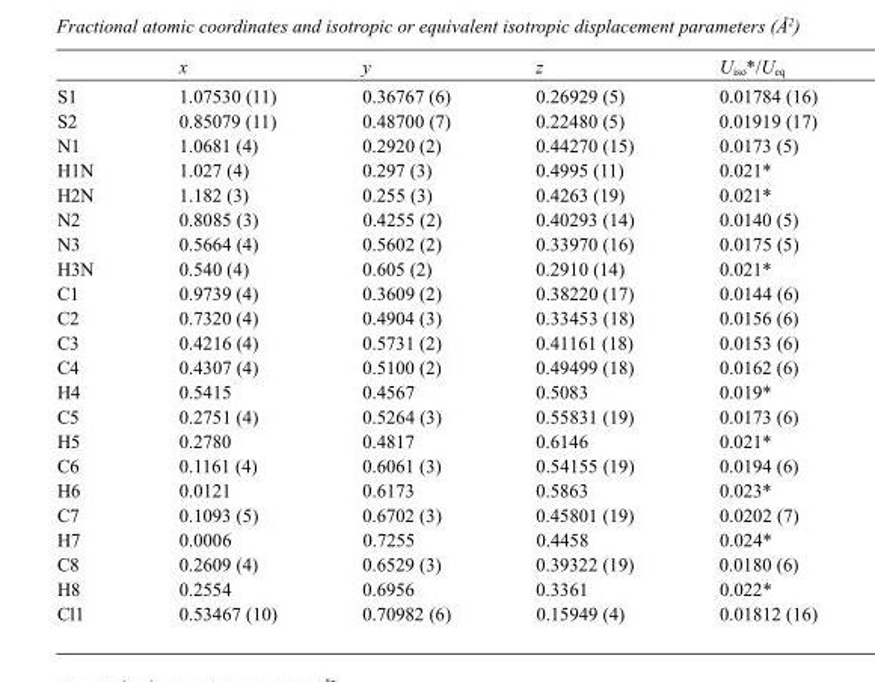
<table><thead><tr><td></td><td>x</td><td>y</td><td>z</td><td>U<sub>iso</sub>*/U<sub>eq</sub></td></tr></thead><tbody><tr><td>S1</td><td>1.07530 (11)</td><td>0.36767 (6)</td><td>0.26929 (5)</td><td>0.01784 (16)</td></tr><tr><td>S2</td><td>0.85079 (11)</td><td>0.48700 (7)</td><td>0.22480 (5)</td><td>0.01919 (17)</td></tr><tr><td>N1</td><td>1.0681 (4)</td><td>0.2920 (2)</td><td>0.44270 (15)</td><td>0.0173 (5)</td></tr><tr><td>H1N</td><td>1.027 (4)</td><td>0.297 (3)</td><td>0.4995 (11)</td><td>0.021*</td></tr><tr><td>H2N</td><td>1.182 (3)</td><td>0.255 (3)</td><td>0.4263 (19)</td><td>0.021*</td></tr><tr><td>N2</td><td>0.8085 (3)</td><td>0.4255 (2)</td><td>0.40293 (14)</td><td>0.0140 (5)</td></tr><tr><td>N3</td><td>0.5664 (4)</td><td>0.5602 (2)</td><td>0.33970 (16)</td><td>0.0175 (5)</td></tr><tr><td>H3N</td><td>0.540 (4)</td><td>0.605 (2)</td><td>0.2910 (14)</td><td>0.021*</td></tr><tr><td>C1</td><td>0.9739 (4)</td><td>0.3609 (2)</td><td>0.38220 (17)</td><td>0.0144 (6)</td></tr><tr><td>C2</td><td>0.7320 (4)</td><td>0.4904 (3)</td><td>0.33453 (18)</td><td>0.0156 (6)</td></tr><tr><td>C3</td><td>0.4216 (4)</td><td>0.5731 (2)</td><td>0.41161 (18)</td><td>0.0153 (6)</td></tr><tr><td>C4</td><td>0.4307 (4)</td><td>0.5100 (2)</td><td>0.49499 (18)</td><td>0.0162 (6)</td></tr><tr><td>H4</td><td>0.5415</td><td>0.4567</td><td>0.5083</td><td>0.019*</td></tr><tr><td>C5</td><td>0.2751 (4)</td><td>0.5264 (3)</td><td>0.55831 (19)</td><td>0.0173 (6)</td></tr><tr><td>H5</td><td>0.2780</td><td>0.4817</td><td>0.6146</td><td>0.021*</td></tr><tr><td>C6</td><td>0.1161 (4)</td><td>0.6061 (3)</td><td>0.54155 (19)</td><td>0.0194 (6)</td></tr><tr><td>H6</td><td>0.0121</td><td>0.6173</td><td>0.5863</td><td>0.023*</td></tr><tr><td>C7</td><td>0.1093 (5)</td><td>0.6702 (3)</td><td>0.45801 (19)</td><td>0.0202 (7)</td></tr><tr><td>H7</td><td>0.0006</td><td>0.7255</td><td>0.4458</td><td>0.024*</td></tr><tr><td>C8</td><td>0.2609 (4)</td><td>0.6529 (3)</td><td>0.39322 (19)</td><td>0.0180 (6)</td></tr><tr><td>H8</td><td>0.2554</td><td>0.6956</td><td>0.3361</td><td>0.022*</td></tr><tr><td>Cl1</td><td>0.53467 (10)</td><td>0.70982 (6)</td><td>0.15949 (4)</td><td>0.01812 (16)</td></tr></tbody></table>